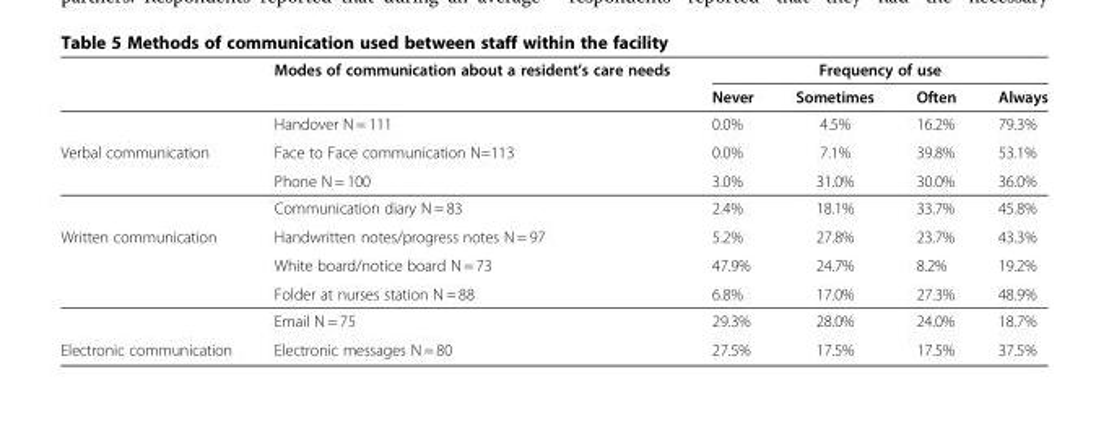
<table><thead><tr><td rowspan="2"></td><td rowspan="2">Modes of communication about a resident’s care needs</td><td colspan="4">Frequency of use</td></tr><tr><td>Never</td><td>Sometimes</td><td>Often</td><td>Always</td></tr></thead><tbody><tr><td></td><td>Handover N = 111</td><td>0.0%</td><td>4.5%</td><td>16.2%</td><td>79.3%</td></tr><tr><td rowspan="3">Verbal communication</td><td>Face to Face communication N=113</td><td>0.0%</td><td>7.1%</td><td>39.8%</td><td>53.1%</td></tr><tr><td>Phone N = 100</td><td>3.0%</td><td>31.0%</td><td>30.0%</td><td>36.0%</td></tr><tr><td>Communication diary N = 83</td><td>2.4%</td><td>18.1%</td><td>33.7%</td><td>45.8%</td></tr><tr><td rowspan="4">Written communication</td><td>Handwritten notes/progress notes N = 97</td><td>5.2%</td><td>27.8%</td><td>23.7%</td><td>43.3%</td></tr><tr><td>White board/notice board N = 73</td><td>47.9%</td><td>24.7%</td><td>8.2%</td><td>19.2%</td></tr><tr><td>Folder at nurses station N = 88</td><td>6.8%</td><td>17.0%</td><td>27.3%</td><td>48.9%</td></tr><tr><td>Email N = 75</td><td>29.3%</td><td>28.0%</td><td>24.0%</td><td>18.7%</td></tr><tr><td>Electronic communication</td><td>Electronic messages N = 80</td><td>27.5%</td><td>17.5%</td><td>17.5%</td><td>37.5%</td></tr></tbody></table>